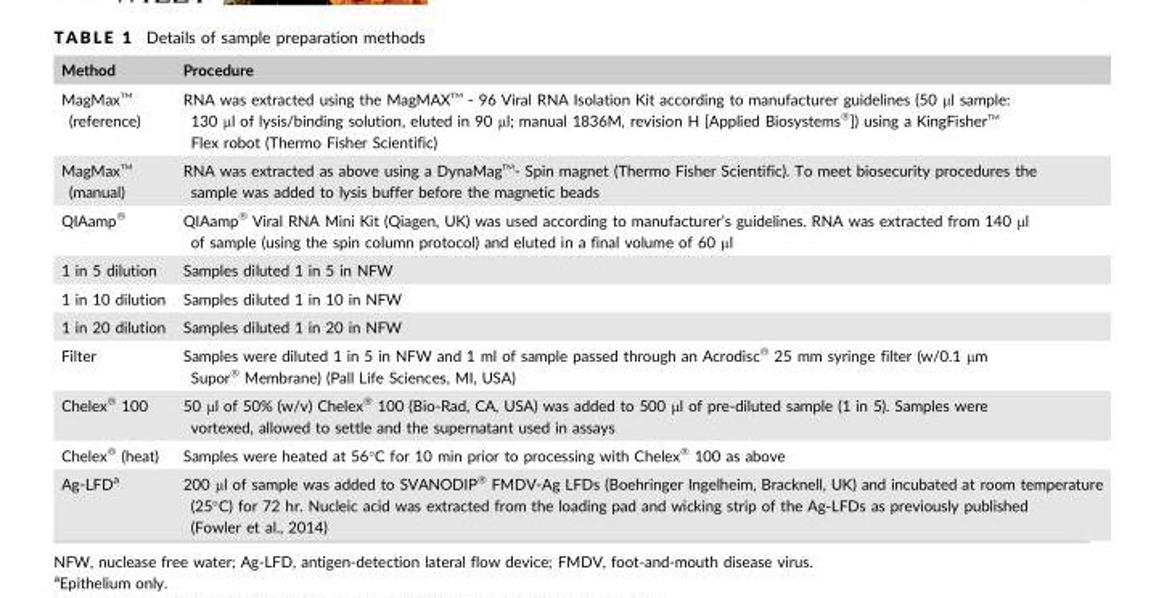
<table><thead><tr><td>Method</td><td>Procedure</td></tr></thead><tbody><tr><td>MagMax TM (reference)</td><td>RNA was extracted using the MagMAX TM - 96 Viral RNA Isolation Kit according to manufacturer guidelines (50 ll sample: 130 ll of lysis/binding solution, eluted in 90 ll; manual 1836M, revision H [Applied Biosystems�]) using a KingFisher TM Flex robot (Thermo Fisher Scientific)</td></tr><tr><td>MagMax TM (manual)</td><td>RNA was extracted as above using a DynaMag TM- Spin magnet (Thermo Fisher Scientific). To meet biosecurity procedures the sample was added to lysis buffer before the magnetic beads</td></tr><tr><td>QIAamp<sup>®</sup></td><td>QIAamp<sup>®</sup> Viral RNA Mini Kit (Qiagen, UK) was used according to manufacturer’s guidelines. RNA was extracted from 140 μl of sample (using the spin column protocol) and eluted in a final volume of 60 μl</td></tr><tr><td>1 in 5 dilution</td><td>Samples diluted 1 in 5 in NFW</td></tr><tr><td>1 in 10 dilution</td><td>Samples diluted 1 in 10 in NFW</td></tr><tr><td>1 in 20 dilution</td><td>Samples diluted 1 in 20 in NFW</td></tr><tr><td>Filter</td><td>Samples were diluted 1 in 5 in NFW and 1 ml of sample passed through an Acrodisc<sup>®</sup> 25 mm syringe filter (w/0.1 μm Supor<sup>®</sup> Membrane) (Pall Life Sciences, MI, USA)</td></tr><tr><td>Chelex<sup>®</sup> 100</td><td>50 μl of 50% (w/v) Chelex<sup>®</sup> 100 (Bio-Rad, CA, USA) was added to 500 μl of pre-diluted sample (1 in 5). Samples were vortexed, allowed to settle and the supernatant used in assays</td></tr><tr><td>Chelex<sup>®</sup> (heat)</td><td>Samples were heated at 56°C for 10 min prior to processing with Chelex<sup>®</sup> 100 as above</td></tr><tr><td>Ag-LFD<sup>a</sup></td><td>200 μl of sample was added to SVANODIP<sup>®</sup> FMDV-Ag LFDs (Boehringer Ingelheim, Bracknell, UK) and incubated at room temperature (25°C) for 72 hr. Nucleic acid was extracted from the loading pad and wicking strip of the Ag-LFDs as previously published (Fowler et al., 2014)</td></tr></tbody></table>